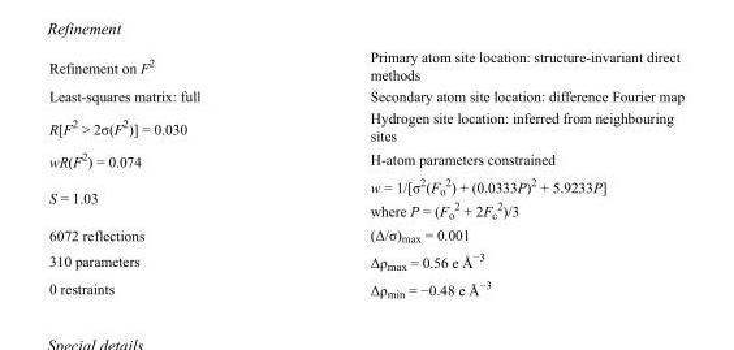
<table><tbody><tr><td>Refinement on F<sup>2</sup></td><td>Primary atom site location: structure-invariant direct methods</td></tr><tr><td>Least-squares matrix: full</td><td>Secondary atom site location: difference Fourier map</td></tr><tr><td>R[F<sup>2</sup> &gt; 2σ(F<sup>2</sup>)] = 0.030</td><td>Hydrogen site location: inferred from neighbouring sites</td></tr><tr><td>wR(F<sup>2</sup>) = 0.074</td><td>H-atom parameters constrained</td></tr><tr><td>S = 1.03</td><td>w = 1/[σ<sup>2</sup>(F<sub>o</sub> <sup>2</sup>) + (0.0333P)<sup>2</sup> + 5.9233P] where P = (F<sub>o</sub> <sup>2</sup> + 2F<sub>c</sub> <sup>2</sup>)/3</td></tr><tr><td>6072 reflections</td><td>(Δ/σ)<sub>max</sub> = 0.001</td></tr><tr><td>310 parameters</td><td>Δρ<sub>max</sub> = 0.56 e Å<sup>−3</sup></td></tr><tr><td>0 restraints</td><td>Δρ<sub>min</sub> = −0.48 e Å<sup>−3</sup></td></tr></tbody></table>